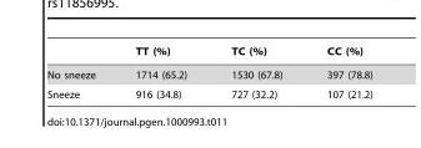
<table><thead><tr><td></td><td>TT (%)</td><td>TC (%)</td><td>CC (%)</td></tr></thead><tbody><tr><td>No sneeze</td><td>1714 (65.2)</td><td>1530 (67.8)</td><td>397 (78.8)</td></tr><tr><td>Sneeze</td><td>916 (34.8)</td><td>727 (32.2)</td><td>107 (21.2)</td></tr></tbody></table>